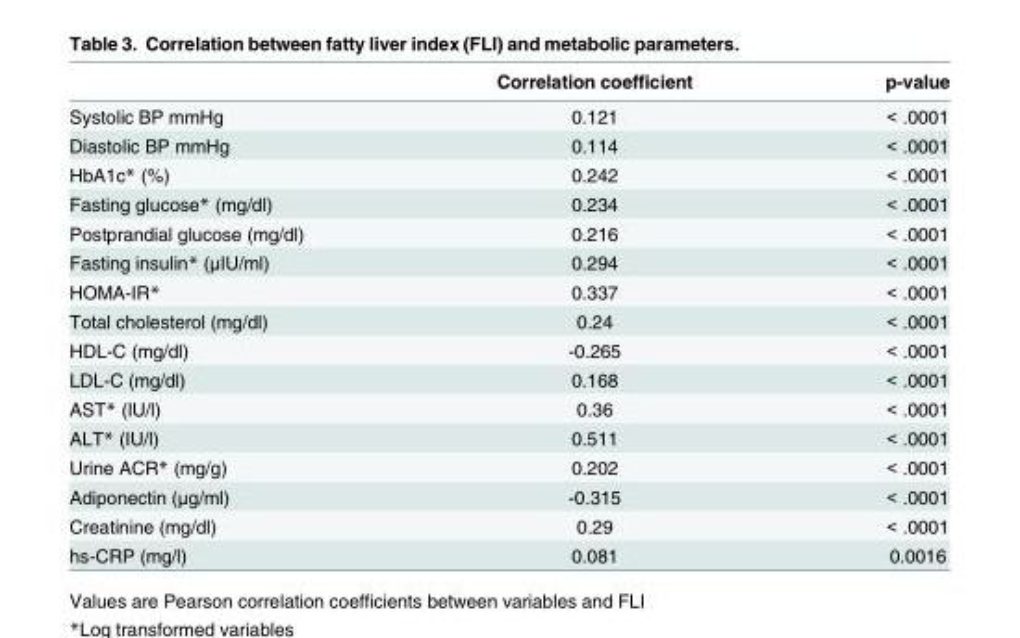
<table><thead><tr><td></td><td>Correlation coefficient</td><td>p-value</td></tr></thead><tbody><tr><td>Systolic BP mmHg</td><td>0.121</td><td>&lt; .0001</td></tr><tr><td>Diastolic BP mmHg</td><td>0.114</td><td>&lt; .0001</td></tr><tr><td>HbA1c* (%)</td><td>0.242</td><td>&lt; .0001</td></tr><tr><td>Fasting glucose* (mg/dl)</td><td>0.234</td><td>&lt; .0001</td></tr><tr><td>Postprandial glucose (mg/dl)</td><td>0.216</td><td>&lt; .0001</td></tr><tr><td>Fasting insulin* (μIU/ml)</td><td>0.294</td><td>&lt; .0001</td></tr><tr><td>HOMA-IR*</td><td>0.337</td><td>&lt; .0001</td></tr><tr><td>Total cholesterol (mg/dl)</td><td>0.24</td><td>&lt; .0001</td></tr><tr><td>HDL-C (mg/dl)</td><td>-0.265</td><td>&lt; .0001</td></tr><tr><td>LDL-C (mg/dl)</td><td>0.168</td><td>&lt; .0001</td></tr><tr><td>AST* (IU/l)</td><td>0.36</td><td>&lt; .0001</td></tr><tr><td>ALT* (IU/l)</td><td>0.511</td><td>&lt; .0001</td></tr><tr><td>Urine ACR* (mg/g)</td><td>0.202</td><td>&lt; .0001</td></tr><tr><td>Adiponectin (μg/ml)</td><td>-0.315</td><td>&lt; .0001</td></tr><tr><td>Creatinine (mg/dl)</td><td>0.29</td><td>&lt; .0001</td></tr><tr><td>hs-CRP (mg/l)</td><td>0.081</td><td>0.0016</td></tr></tbody></table>